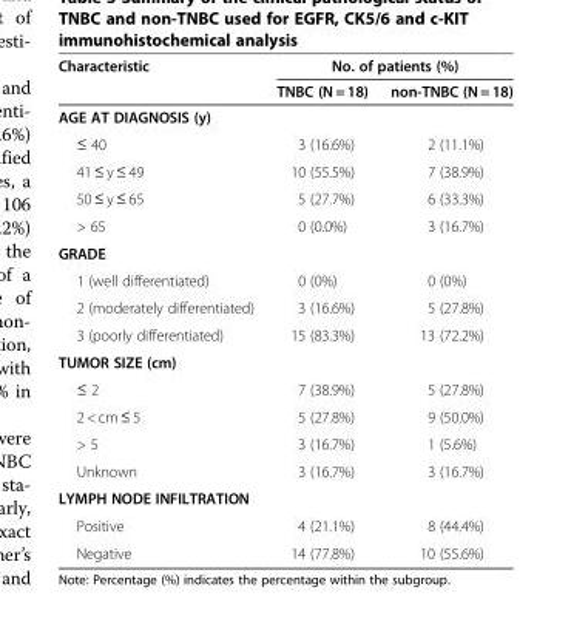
<table><thead><tr><td rowspan="2">Characteristic</td><td colspan="2">No. of patients (%)</td></tr><tr><td>TNBC (N = 18)</td><td>non-TNBC (N = 18)</td></tr></thead><tbody><tr><td colspan="3">AGE AT DIAGNOSIS (y)</td></tr><tr><td>≤ 40</td><td>3 (16.6%)</td><td>2 (11.1%)</td></tr><tr><td>41 ≤ y ≤ 49</td><td>10 (55.5%)</td><td>7 (38.9%)</td></tr><tr><td>50 ≤ y ≤ 65</td><td>5 (27.7%)</td><td>6 (33.3%)</td></tr><tr><td>&gt; 65</td><td>0 (0.0%)</td><td>3 (16.7%)</td></tr><tr><td colspan="3">GRADE</td></tr><tr><td>1 (well differentiated)</td><td>0 (0%)</td><td>0 (0%)</td></tr><tr><td>2 (moderately differentiated)</td><td>3 (16.6%)</td><td>5 (27.8%)</td></tr><tr><td>3 (poorly differentiated)</td><td>15 (83.3%)</td><td>13 (72.2%)</td></tr><tr><td colspan="3">TUMOR SIZE (cm)</td></tr><tr><td>≤ 2</td><td>7 (38.9%)</td><td>5 (27.8%)</td></tr><tr><td>2 &lt; cm ≤ 5</td><td>5 (27.8%)</td><td>9 (50.0%)</td></tr><tr><td>&gt; 5</td><td>3 (16.7%)</td><td>1 (5.6%)</td></tr><tr><td>Unknown</td><td>3 (16.7%)</td><td>3 (16.7%)</td></tr><tr><td colspan="3">LYMPH NODE INFILTRATION</td></tr><tr><td>Positive</td><td>4 (21.1%)</td><td>8 (44.4%)</td></tr><tr><td>Negative</td><td>14 (77.8%)</td><td>10 (55.6%)</td></tr></tbody></table>